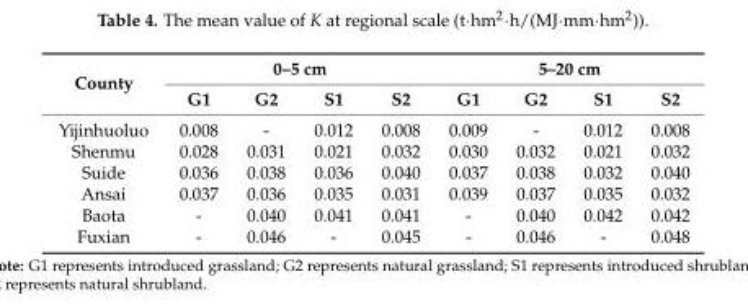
<table><thead><tr><td rowspan="2">County</td><td colspan="4">0–5 cm</td><td colspan="4">5–20 cm</td></tr><tr><td>G1</td><td>G2</td><td>S1</td><td>S2</td><td>G1</td><td>G2</td><td>S1</td><td>S2</td></tr></thead><tbody><tr><td>Yijinhuoluo</td><td>0.008</td><td>-</td><td>0.012</td><td>0.008</td><td>0.009</td><td>-</td><td>0.012</td><td>0.008</td></tr><tr><td>Shenmu</td><td>0.028</td><td>0.031</td><td>0.021</td><td>0.032</td><td>0.030</td><td>0.032</td><td>0.021</td><td>0.032</td></tr><tr><td>Suide</td><td>0.036</td><td>0.038</td><td>0.036</td><td>0.040</td><td>0.037</td><td>0.038</td><td>0.032</td><td>0.040</td></tr><tr><td>Ansai</td><td>0.037</td><td>0.036</td><td>0.035</td><td>0.031</td><td>0.039</td><td>0.037</td><td>0.035</td><td>0.032</td></tr><tr><td>Baota</td><td>-</td><td>0.040</td><td>0.041</td><td>0.041</td><td>-</td><td>0.040</td><td>0.042</td><td>0.042</td></tr><tr><td>Fuxian</td><td>-</td><td>0.046</td><td>-</td><td>0.045</td><td>-</td><td>0.046</td><td>-</td><td>0.048</td></tr></tbody></table>